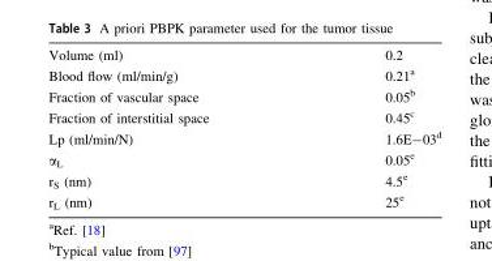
<table><tbody><tr><td>Volume (ml)</td><td>0.2</td></tr><tr><td>Blood flow (ml/min/g)</td><td>0.21<sup>a</sup></td></tr><tr><td>Fraction of vascular space</td><td>0.05<sup>b</sup></td></tr><tr><td>Fraction of interstitial space</td><td>0.45<sup>c</sup></td></tr><tr><td>Lp (ml/min/N)</td><td>1.6E-03<sup>d</sup></td></tr><tr><td>α<sub>L</sub></td><td>0.05<sup>e</sup></td></tr><tr><td>r<sub>S</sub> (nm)</td><td>4.5<sup>e</sup></td></tr><tr><td>r<sub>L</sub> (nm)</td><td>25<sup>e</sup></td></tr></tbody></table>